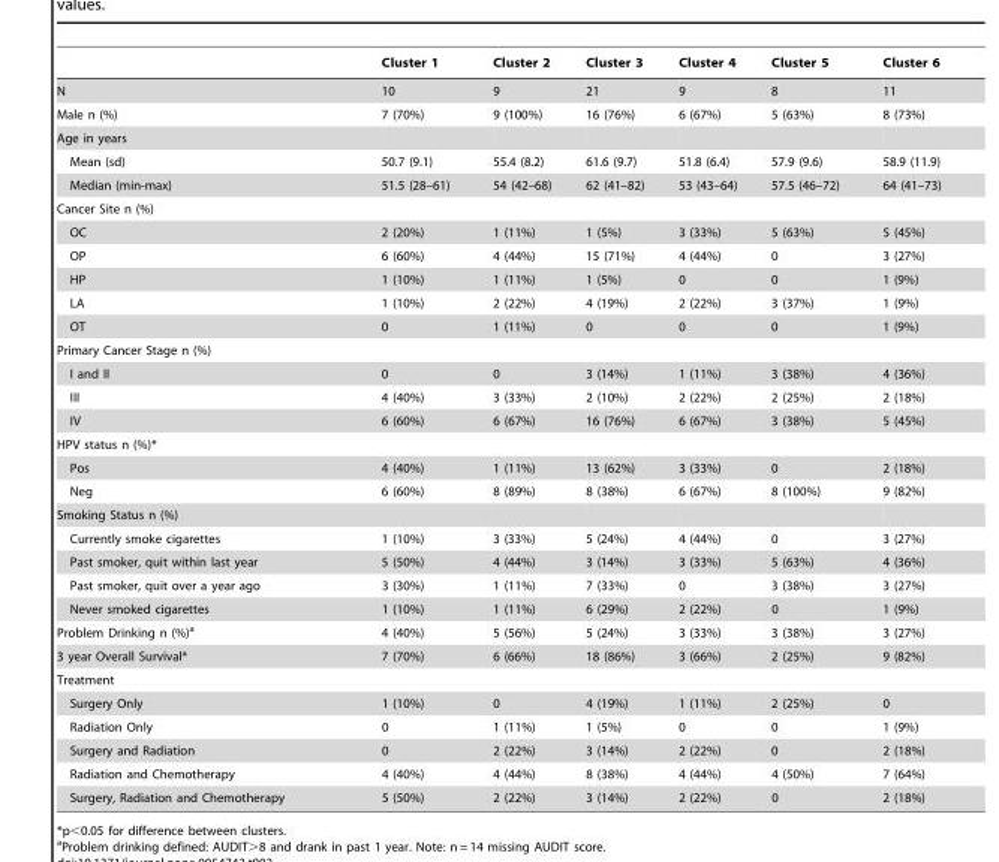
<table><thead><tr><td></td><td>Cluster 1</td><td>Cluster 2</td><td>Cluster 3</td><td>Cluster 4</td><td>Cluster 5</td><td>Cluster 6</td></tr></thead><tbody><tr><td>N</td><td>10</td><td>9</td><td>21</td><td>9</td><td>8</td><td>11</td></tr><tr><td>Male n (%)</td><td>7 (70%)</td><td>9 (100%)</td><td>16 (76%)</td><td>6 (67%)</td><td>5 (63%)</td><td>8 (73%)</td></tr><tr><td colspan="7">Age in years</td></tr><tr><td>Mean (sd)</td><td>50.7 (9.1)</td><td>55.4 (8.2)</td><td>61.6 (9.7)</td><td>51.8 (6.4)</td><td>57.9 (9.6)</td><td>58.9 (11.9)</td></tr><tr><td>Median (min-max)</td><td>51.5 (28–61)</td><td>54 (42–68)</td><td>62 (41–82)</td><td>53 (43–64)</td><td>57.5 (46–72)</td><td>64 (41–73)</td></tr><tr><td colspan="7">Cancer Site n (%)</td></tr><tr><td>OC</td><td>2 (20%)</td><td>1 (11%)</td><td>1 (5%)</td><td>3 (33%)</td><td>5 (63%)</td><td>5 (45%)</td></tr><tr><td>OP</td><td>6 (60%)</td><td>4 (44%)</td><td>15 (71%)</td><td>4 (44%)</td><td>0</td><td>3 (27%)</td></tr><tr><td>HP</td><td>1 (10%)</td><td>1 (11%)</td><td>1 (5%)</td><td>0</td><td>0</td><td>1 (9%)</td></tr><tr><td>LA</td><td>1 (10%)</td><td>2 (22%)</td><td>4 (19%)</td><td>2 (22%)</td><td>3 (37%)</td><td>1 (9%)</td></tr><tr><td>OT</td><td>0</td><td>1 (11%)</td><td>0</td><td>0</td><td>0</td><td>1 (9%)</td></tr><tr><td colspan="7">Primary Cancer Stage n (%)</td></tr><tr><td>I and II</td><td>0</td><td>0</td><td>3 (14%)</td><td>1 (11%)</td><td>3 (38%)</td><td>4 (36%)</td></tr><tr><td>III</td><td>4 (40%)</td><td>3 (33%)</td><td>2 (10%)</td><td>2 (22%)</td><td>2 (25%)</td><td>2 (18%)</td></tr><tr><td>IV</td><td>6 (60%)</td><td>6 (67%)</td><td>16 (76%)</td><td>6 (67%)</td><td>3 (38%)</td><td>5 (45%)</td></tr><tr><td colspan="7">HPV status n (%)*</td></tr><tr><td>Pos</td><td>4 (40%)</td><td>1 (11%)</td><td>13 (62%)</td><td>3 (33%)</td><td>0</td><td>2 (18%)</td></tr><tr><td>Neg</td><td>6 (60%)</td><td>8 (89%)</td><td>8 (38%)</td><td>6 (67%)</td><td>8 (100%)</td><td>9 (82%)</td></tr><tr><td colspan="7">Smoking Status n (%)</td></tr><tr><td>Currently smoke cigarettes</td><td>1 (10%)</td><td>3 (33%)</td><td>5 (24%)</td><td>4 (44%)</td><td>0</td><td>3 (27%)</td></tr><tr><td>Past smoker, quit within last year</td><td>5 (50%)</td><td>4 (44%)</td><td>3 (14%)</td><td>3 (33%)</td><td>5 (63%)</td><td>4 (36%)</td></tr><tr><td>Past smoker, quit over a year ago</td><td>3 (30%)</td><td>1 (11%)</td><td>7 (33%)</td><td>0</td><td>3 (38%)</td><td>3 (27%)</td></tr><tr><td>Never smoked cigarettes</td><td>1 (10%)</td><td>1 (11%)</td><td>6 (29%)</td><td>2 (22%)</td><td>0</td><td>1 (9%)</td></tr><tr><td>Problem Drinking n (%)<sup>a</sup></td><td>4 (40%)</td><td>5 (56%)</td><td>5 (24%)</td><td>3 (33%)</td><td>3 (38%)</td><td>3 (27%)</td></tr><tr><td>3 year Overall Survival*</td><td>7 (70%)</td><td>6 (66%)</td><td>18 (86%)</td><td>3 (66%)</td><td>2 (25%)</td><td>9 (82%)</td></tr><tr><td colspan="7">Treatment</td></tr><tr><td>Surgery Only</td><td>1 (10%)</td><td>0</td><td>4 (19%)</td><td>1 (11%)</td><td>2 (25%)</td><td>0</td></tr><tr><td>Radiation Only</td><td>0</td><td>1 (11%)</td><td>1 (5%)</td><td>0</td><td>0</td><td>1 (9%)</td></tr><tr><td>Surgery and Radiation</td><td>0</td><td>2 (22%)</td><td>3 (14%)</td><td>2 (22%)</td><td>0</td><td>2 (18%)</td></tr><tr><td>Radiation and Chemotherapy</td><td>4 (40%)</td><td>4 (44%)</td><td>8 (38%)</td><td>4 (44%)</td><td>4 (50%)</td><td>7 (64%)</td></tr><tr><td>Surgery, Radiation and Chemotherapy</td><td>5 (50%)</td><td>2 (22%)</td><td>3 (14%)</td><td>2 (22%)</td><td>0</td><td>2 (18%)</td></tr></tbody></table>